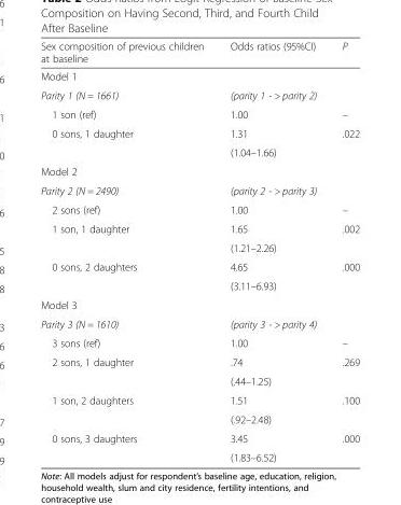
<table><thead><tr><td>Sex composition of previous children at baseline</td><td>Odds ratios (95%CI)</td><td>P</td></tr></thead><tbody><tr><td colspan="3">Model 1</td></tr><tr><td>Parity 1 (N = 1661)</td><td colspan="2">(parity 1 - &gt; parity 2)</td></tr><tr><td>1 son (ref)</td><td>1.00</td><td>–</td></tr><tr><td rowspan="2">0 sons, 1 daughter</td><td>1.31</td><td>.022</td></tr><tr><td>(1.04–1.66)</td><td></td></tr><tr><td colspan="3">Model 2</td></tr><tr><td>Parity 2 (N = 2490)</td><td colspan="2">(parity 2 - &gt; parity 3)</td></tr><tr><td>2 sons (ref)</td><td>1.00</td><td>–</td></tr><tr><td rowspan="2">1 son, 1 daughter</td><td>1.65</td><td>.002</td></tr><tr><td>(1.21–2.26)</td><td></td></tr><tr><td rowspan="2">0 sons, 2 daughters</td><td>4.65</td><td>.000</td></tr><tr><td>(3.11–6.93)</td><td></td></tr><tr><td colspan="3">Model 3</td></tr><tr><td>Parity 3 (N = 1610)</td><td colspan="2">(parity 3 - &gt; parity 4)</td></tr><tr><td>3 sons (ref)</td><td>1.00</td><td>–</td></tr><tr><td rowspan="2">2 sons, 1 daughter</td><td>.74</td><td>.269</td></tr><tr><td>(.44–1.25)</td><td></td></tr><tr><td rowspan="2">1 son, 2 daughters</td><td>1.51</td><td>.100</td></tr><tr><td>(.92–2.48)</td><td></td></tr><tr><td rowspan="2">0 sons, 3 daughters</td><td>3.45</td><td>.000</td></tr><tr><td>(1.83–6.52)</td><td></td></tr></tbody></table>